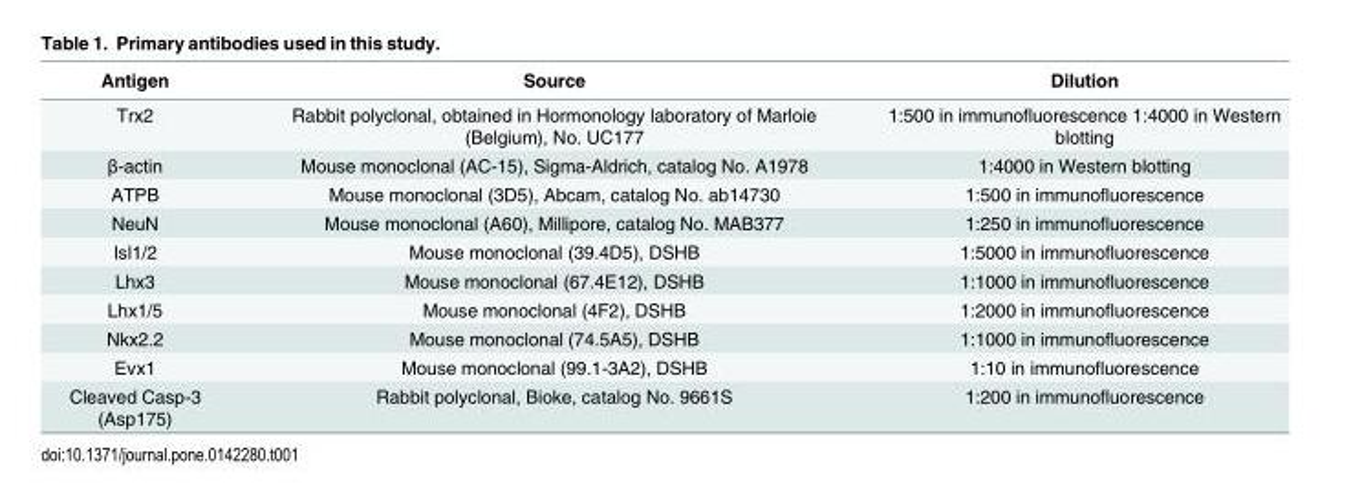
<table><thead><tr><td>Antigen</td><td>Source</td><td>Dilution</td></tr></thead><tbody><tr><td>Trx2</td><td>Rabbit polyclonal, obtained in Hormonology laboratory of Marloie (Belgium), No. UC177</td><td>1:500 in immunofluorescence 1:4000 in Western blotting</td></tr><tr><td>β-actin</td><td>Mouse monoclonal (AC-15), Sigma-Aldrich, catalog No. A1978</td><td>1:4000 in Western blotting</td></tr><tr><td>ATPB</td><td>Mouse monoclonal (3D5), Abcam, catalog No. ab14730</td><td>1:500 in immunofluorescence</td></tr><tr><td>NeuN</td><td>Mouse monoclonal (A60), Millipore, catalog No. MAB377</td><td>1:250 in immunofluorescence</td></tr><tr><td>Isl1/2</td><td>Mouse monoclonal (39.4D5), DSHB</td><td>1:5000 in immunofluorescence</td></tr><tr><td>Lhx3</td><td>Mouse monoclonal (67.4E12), DSHB</td><td>1:1000 in immunofluorescence</td></tr><tr><td>Lhx1/5</td><td>Mouse monoclonal (4F2), DSHB</td><td>1:2000 in immunofluorescence</td></tr><tr><td>Nkx2.2</td><td>Mouse monoclonal (74.5A5), DSHB</td><td>1:1000 in immunofluorescence</td></tr><tr><td>Evx1</td><td>Mouse monoclonal (99.1-3A2), DSHB</td><td>1:10 in immunofluorescence</td></tr><tr><td>Cleaved Casp-3 (Asp175)</td><td>Rabbit polyclonal, Bioke, catalog No. 9661S</td><td>1:200 in immunofluorescence</td></tr></tbody></table>